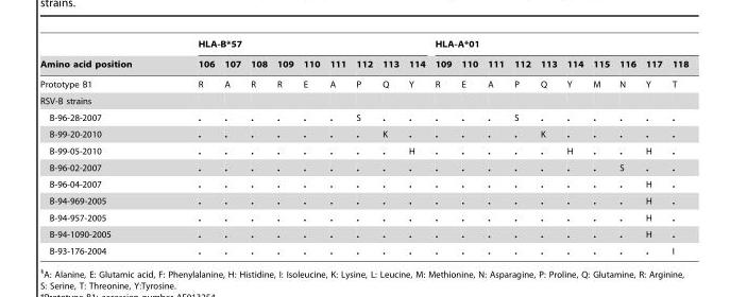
<table><thead><tr><td rowspan="2">Amino acid position</td><td colspan="9">HLA-B*57</td><td colspan="10">HLA-A*01</td></tr><tr><td>106</td><td>107</td><td>108</td><td>109</td><td>110</td><td>111</td><td>112</td><td>113</td><td>114</td><td>109</td><td>110</td><td>111</td><td>112</td><td>113</td><td>114</td><td>115</td><td>116</td><td>117</td><td>118</td></tr></thead><tbody><tr><td>Prototype B1</td><td>R</td><td>A</td><td>R</td><td>R</td><td>E</td><td>A</td><td>P</td><td>Q</td><td>Y</td><td>R</td><td>E</td><td>A</td><td>P</td><td>Q</td><td>Y</td><td>M</td><td>N</td><td>Y</td><td>T</td></tr><tr><td colspan="20">RSV-B strains</td></tr><tr><td>B-96-28-2007</td><td>.</td><td>.</td><td>.</td><td>.</td><td>.</td><td>.</td><td>S</td><td>.</td><td>.</td><td>.</td><td>.</td><td>.</td><td>S</td><td>.</td><td>.</td><td>.</td><td>.</td><td>.</td><td>.</td></tr><tr><td>B-99-20-2010</td><td>.</td><td>.</td><td>.</td><td>.</td><td>.</td><td>.</td><td>.</td><td>K</td><td>.</td><td>.</td><td>.</td><td>.</td><td>.</td><td>K</td><td>.</td><td>.</td><td>.</td><td>.</td><td>.</td></tr><tr><td>B-99-05-2010</td><td>.</td><td>.</td><td>.</td><td>.</td><td>.</td><td>.</td><td>.</td><td>.</td><td>H</td><td>.</td><td>.</td><td>.</td><td>.</td><td>.</td><td>H</td><td>.</td><td>.</td><td>H</td><td>.</td></tr><tr><td>B-96-02-2007</td><td>.</td><td>.</td><td>.</td><td>.</td><td>.</td><td>.</td><td>.</td><td>.</td><td>.</td><td>.</td><td>.</td><td>.</td><td>.</td><td>.</td><td>.</td><td>.</td><td>S</td><td>.</td><td>.</td></tr><tr><td>B-96-04-2007</td><td>.</td><td>.</td><td>.</td><td>.</td><td>.</td><td>.</td><td>.</td><td>.</td><td>.</td><td>.</td><td>.</td><td>.</td><td>.</td><td>.</td><td>.</td><td>.</td><td>.</td><td>H</td><td>.</td></tr><tr><td>B-94-969-2005</td><td>.</td><td>.</td><td>.</td><td>.</td><td>.</td><td>.</td><td>.</td><td>.</td><td>.</td><td>.</td><td>.</td><td>.</td><td>.</td><td>.</td><td>.</td><td>.</td><td>.</td><td>H</td><td>.</td></tr><tr><td>B-94-957-2005</td><td>.</td><td>.</td><td>.</td><td>.</td><td>.</td><td>.</td><td>.</td><td>.</td><td>.</td><td>.</td><td>.</td><td>.</td><td>.</td><td>.</td><td>.</td><td>.</td><td>.</td><td>H</td><td>.</td></tr><tr><td>B-94-1090-2005</td><td>.</td><td>.</td><td>.</td><td>.</td><td>.</td><td>.</td><td>.</td><td>.</td><td>.</td><td>.</td><td>.</td><td>.</td><td>.</td><td>.</td><td>.</td><td>.</td><td>.</td><td>H</td><td>.</td></tr><tr><td>B-93-176-2004</td><td>.</td><td>.</td><td>.</td><td>.</td><td>.</td><td>.</td><td>.</td><td>.</td><td>.</td><td>.</td><td>.</td><td>.</td><td>.</td><td>.</td><td>.</td><td>.</td><td>.</td><td>.</td><td>I</td></tr></tbody></table>